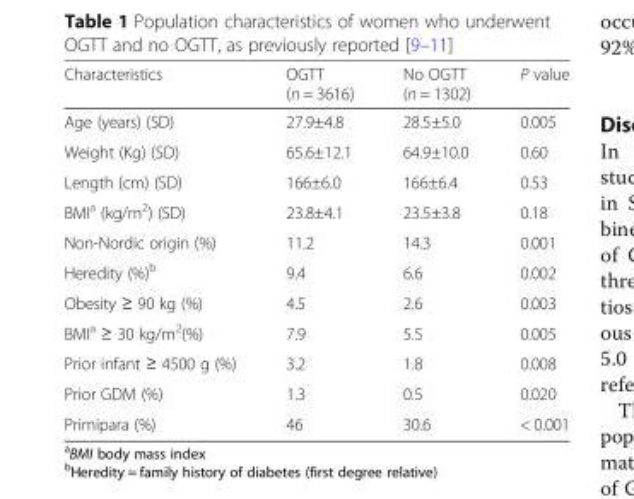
<table><thead><tr><td>Characteristics</td><td>OGTT (n = 3616)</td><td>No OGTT (n = 1302)</td><td>P value</td></tr></thead><tbody><tr><td>Age (years) (SD)</td><td>27.9±4.8</td><td>28.5±5.0</td><td>0.005</td></tr><tr><td>Weight (Kg) (SD)</td><td>65.6±12.1</td><td>64.9±10.0</td><td>0.60</td></tr><tr><td>Length (cm) (SD)</td><td>166±6.0</td><td>166±6.4</td><td>0.53</td></tr><tr><td>BMI<sup>a</sup> (kg/m<sup>2</sup>) (SD)</td><td>23.8±4.1</td><td>23.5±3.8</td><td>0.18</td></tr><tr><td>Non-Nordic origin (%)</td><td>11.2</td><td>14.3</td><td>0.001</td></tr><tr><td>Heredity (%)<sup>b</sup></td><td>9.4</td><td>6.6</td><td>0.002</td></tr><tr><td>Obesity ≥ 90 kg (%)</td><td>4.5</td><td>2.6</td><td>0.003</td></tr><tr><td>BMI<sup>a</sup> ≥ 30 kg/m<sup>2</sup>(%)</td><td>7.9</td><td>5.5</td><td>0.005</td></tr><tr><td>Prior infant ≥ 4500 g (%)</td><td>3.2</td><td>1.8</td><td>0.008</td></tr><tr><td>Prior GDM (%)</td><td>1.3</td><td>0.5</td><td>0.020</td></tr><tr><td>Primipara (%)</td><td>46</td><td>30.6</td><td>&lt; 0.001</td></tr></tbody></table>